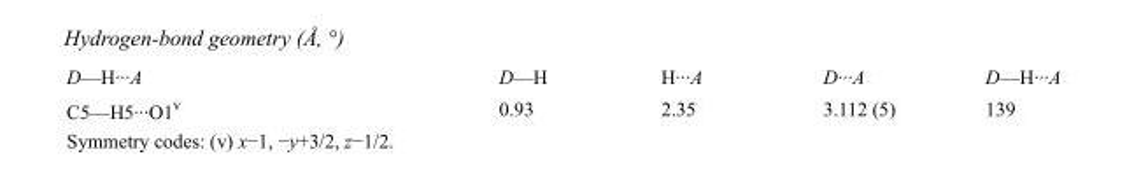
<table><tbody><tr><td>D—H···A</td><td>D—H</td><td>H···A</td><td>D···A</td><td>D—H···A</td></tr><tr><td>C5—H5···O1<sup>v</sup></td><td>0.93</td><td>2.35</td><td>3.112 (5)</td><td>139</td></tr></tbody></table>